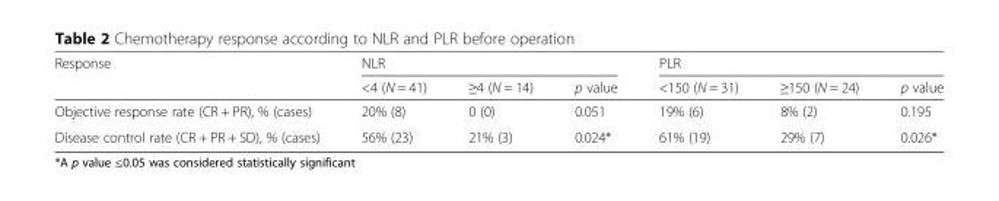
<table><thead><tr><td rowspan="2">Response</td><td colspan="3">NLR</td><td colspan="3">PLR</td></tr><tr><td>&lt;4 (N = 41)</td><td>≥4 (N = 14)</td><td>p value</td><td>&lt;150 (N = 31)</td><td>≥150 (N = 24)</td><td>p value</td></tr></thead><tbody><tr><td>Objective response rate (CR + PR), % (cases)</td><td>20% (8)</td><td>0 (0)</td><td>0.051</td><td>19% (6)</td><td>8% (2)</td><td>0.195</td></tr><tr><td>Disease control rate (CR + PR + SD), % (cases)</td><td>56% (23)</td><td>21% (3)</td><td>0.024*</td><td>61% (19)</td><td>29% (7)</td><td>0.026*</td></tr></tbody></table>